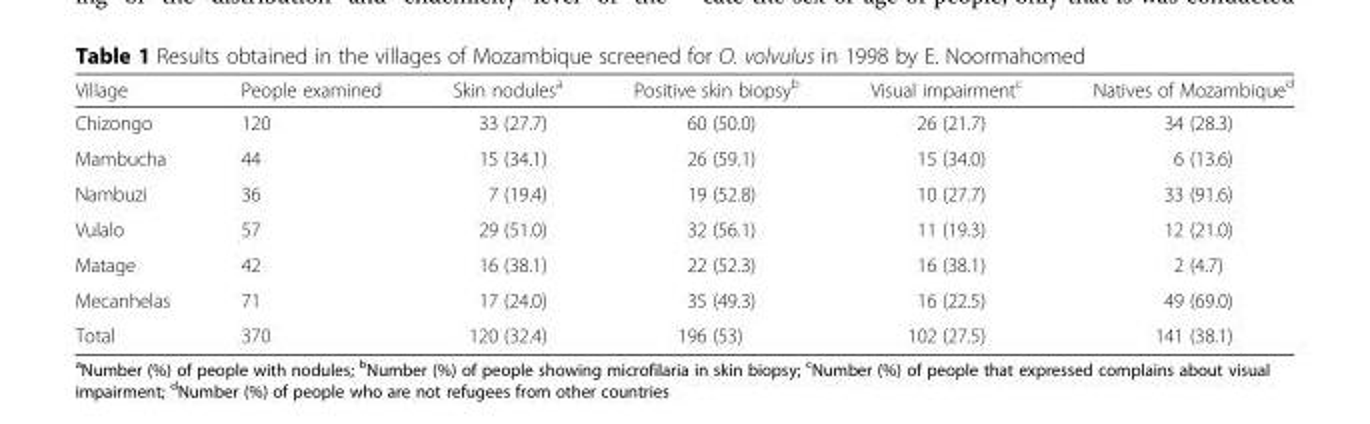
<table><thead><tr><td>Village</td><td>People examined</td><td>Skin nodules<sup>a</sup></td><td>Positive skin biopsy<sup>b</sup></td><td>Visual impairment<sup>c</sup></td><td>Natives of Mozambique<sup>d</sup></td></tr></thead><tbody><tr><td>Chizongo</td><td>120</td><td>33 (27.7)</td><td>60 (50.0)</td><td>26 (21.7)</td><td>34 (28.3)</td></tr><tr><td>Mambucha</td><td>44</td><td>15 (34.1)</td><td>26 (59.1)</td><td>15 (34.0)</td><td>6 (13.6)</td></tr><tr><td>Nambuzi</td><td>36</td><td>7 (19.4)</td><td>19 (52.8)</td><td>10 (27.7)</td><td>33 (91.6)</td></tr><tr><td>Vulalo</td><td>57</td><td>29 (51.0)</td><td>32 (56.1)</td><td>11 (19.3)</td><td>12 (21.0)</td></tr><tr><td>Matage</td><td>42</td><td>16 (38.1)</td><td>22 (52.3)</td><td>16 (38.1)</td><td>2 (4.7)</td></tr><tr><td>Mecanhelas</td><td>71</td><td>17 (24.0)</td><td>35 (49.3)</td><td>16 (22.5)</td><td>49 (69.0)</td></tr><tr><td>Total</td><td>370</td><td>120 (32.4)</td><td>196 (53)</td><td>102 (27.5)</td><td>141 (38.1)</td></tr></tbody></table>